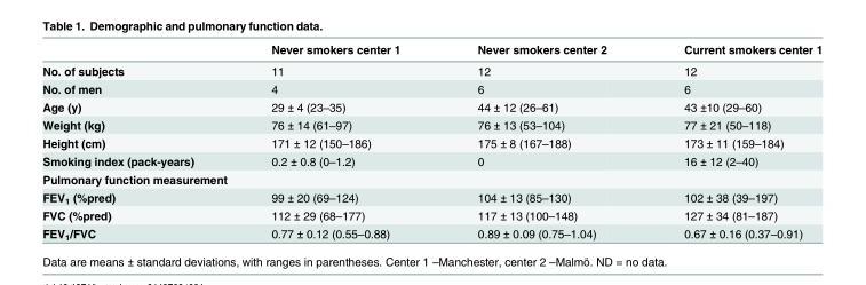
<table><thead><tr><td></td><td>Never smokers center 1</td><td>Never smokers center 2</td><td>Current smokers center 1</td></tr></thead><tbody><tr><td>No. of subjects</td><td>11</td><td>12</td><td>12</td></tr><tr><td>No. of men</td><td>4</td><td>6</td><td>6</td></tr><tr><td>Age (y)</td><td>29 ± 4 (23–35)</td><td>44 ± 12 (26–61)</td><td>43 ±10 (29–60)</td></tr><tr><td>Weight (kg)</td><td>76 ± 14 (61–97)</td><td>76 ± 13 (53–104)</td><td>77 ± 21 (50–118)</td></tr><tr><td>Height (cm)</td><td>171 ± 12 (150–186)</td><td>175 ± 8 (167–188)</td><td>173 ± 11 (159–184)</td></tr><tr><td>Smoking index (pack-years)</td><td>0.2 ± 0.8 (0–1.2)</td><td>0</td><td>16 ± 12 (2–40)</td></tr><tr><td colspan="4">Pulmonary function measurement</td></tr><tr><td>FEV<sub>1</sub> (%pred)</td><td>99 ± 20 (69–124)</td><td>104 ± 13 (85–130)</td><td>102 ± 38 (39–197)</td></tr><tr><td>FVC (%pred)</td><td>112 ± 29 (68–177)</td><td>117 ± 13 (100–148)</td><td>127 ± 34 (81–187)</td></tr><tr><td>FEV<sub>1</sub>/FVC</td><td>0.77 ± 0.12 (0.55–0.88)</td><td>0.89 ± 0.09 (0.75–1.04)</td><td>0.67 ± 0.16 (0.37–0.91)</td></tr></tbody></table>